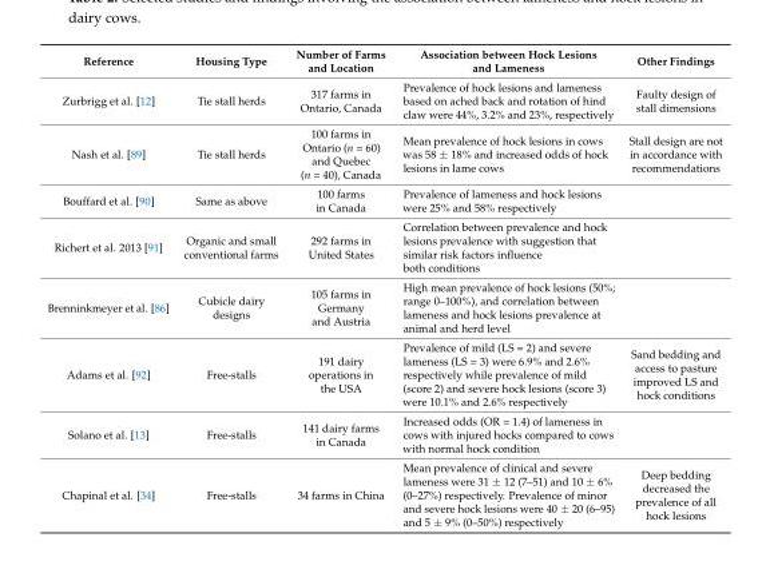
<table><thead><tr><td>Reference</td><td>Housing Type</td><td>Number of Farms and Location</td><td>Association between Hock Lesions and Lameness</td><td>Other Findings</td></tr></thead><tbody><tr><td>Zurbrigg et al. [12]</td><td>Tie stall herds</td><td>317 farms in Ontario, Canada</td><td>Prevalence of hock lesions and lameness based on ached back and rotation of hind claw were 44%, 3.2% and 23%, respectively</td><td>Faulty design of stall dimensions</td></tr><tr><td>Nash et al. [89]</td><td>Tie stall herds</td><td>100 farms in Ontario (n = 60) and Quebec (n = 40), Canada</td><td>Mean prevalence of hock lesions in cows was 58 ± 18% and increased odds of hock lesions in lame cows</td><td>Stall design are not in accordance with recommendations</td></tr><tr><td>Bouffard et al. [90]</td><td>Same as above</td><td>100 farms in Canada</td><td>Prevalence of lameness and hock lesions were 25% and 58% respectively</td><td></td></tr><tr><td>Richert et al. 2013 [91]</td><td>Organic and small conventional farms</td><td>292 farms in United States</td><td>Correlation between prevalence and hock lesions prevalence with suggestion that similar risk factors influence both conditions</td><td></td></tr><tr><td>Brenninkmeyer et al. [86]</td><td>Cubicle dairy designs</td><td>105 farms in Germany and Austria</td><td>High mean prevalence of hock lesions (50%; range 0–100%), and correlation between lameness and hock lesions prevalence at animal and herd level</td><td></td></tr><tr><td>Adams et al. [92]</td><td>Free-stalls</td><td>191 dairy operations in the USA</td><td>Prevalence of mild (LS = 2) and severe lameness (LS = 3) were 6.9% and 2.6% respectively while prevalence of mild (score 2) and severe hock lesions (score 3) were 10.1% and 2.6% respectively</td><td>Sand bedding and access to pasture improved LS and hock conditions</td></tr><tr><td>Solano et al. [13]</td><td>Free-stalls</td><td>141 dairy farms in Canada</td><td>Increased odds (OR = 1.4) of lameness in cows with injured hocks compared to cows with normal hock condition</td><td></td></tr><tr><td>Chapinal et al. [34]</td><td>Free-stalls</td><td>34 farms in China</td><td>Mean prevalence of clinical and severe lameness were 31 ± 12 (7–51) and 10 ± 6% (0–27%) respectively. Prevalence of minor and severe hock lesions were 40 ± 20 (6–95) and 5 ± 9% (0–50%) respectively</td><td>Deep bedding decreased the prevalence of all hock lesions</td></tr></tbody></table>